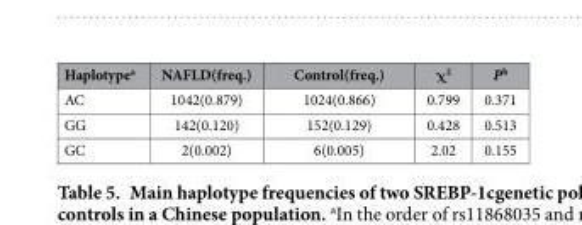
<table><thead><tr><td>Haplotype<sup>a</sup></td><td>NAFLD(freq.)</td><td>Control(freq.)</td><td>χ<sup>2</sup></td><td>P<sup>b</sup></td></tr></thead><tbody><tr><td>AC</td><td>1042(0.879)</td><td>1024(0.866)</td><td>0.799</td><td>0.371</td></tr><tr><td>GG</td><td>142(0.120)</td><td>152(0.129)</td><td>0.428</td><td>0.513</td></tr><tr><td>GC</td><td>2(0.002)</td><td>6(0.005)</td><td>2.02</td><td>0.155</td></tr></tbody></table>